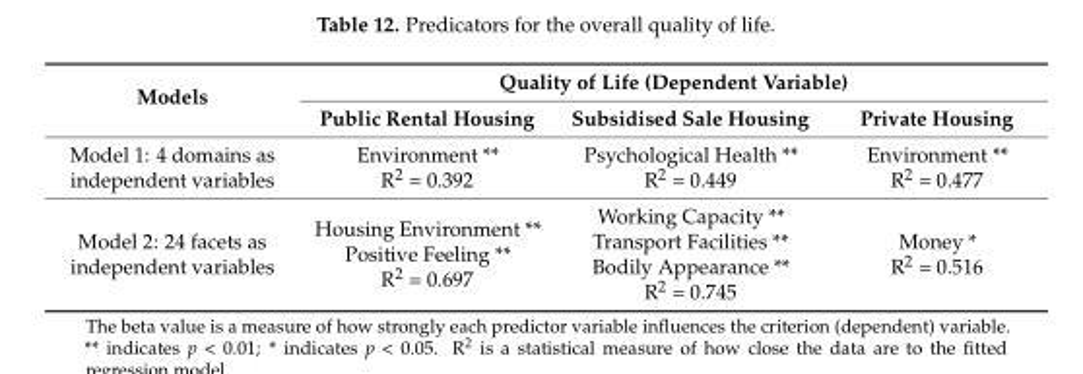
<table><thead><tr><td rowspan="2">Models</td><td colspan="3">Quality of Life (Dependent Variable)</td></tr><tr><td>Public Rental Housing</td><td>Subsidised Sale Housing</td><td>Private Housing</td></tr></thead><tbody><tr><td>Model 1: 4 domains as independent variables</td><td>Environment ** R<sup>2</sup> = 0.392</td><td>Psychological Health ** R<sup>2</sup> = 0.449</td><td>Environment ** R<sup>2</sup> = 0.477</td></tr><tr><td>Model 2: 24 facets as independent variables</td><td>Housing Environment ** Positive Feeling ** R<sup>2</sup> = 0.697</td><td>Working Capacity ** Transport Facilities ** Bodily Appearance ** R<sup>2</sup> = 0.745</td><td>Money * R<sup>2</sup> = 0.516</td></tr></tbody></table>